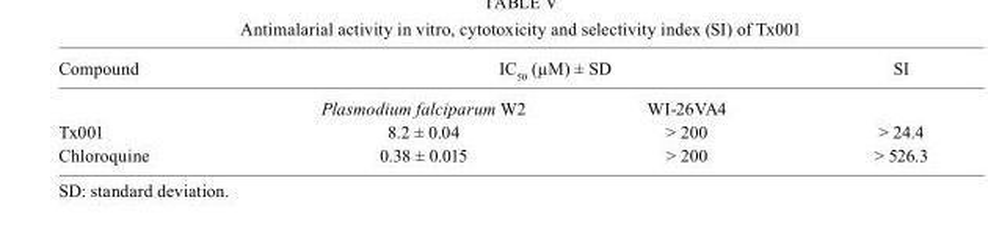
<table><thead><tr><td rowspan="2">Compound</td><td colspan="2">IC<sub>50</sub> (µM) ± SD</td><td rowspan="2">SI</td></tr><tr><td>Plasmodium falciparum W2</td><td>WI-26VA4</td></tr></thead><tbody><tr><td>Tx001</td><td>8.2 ± 0.04</td><td>&gt; 200</td><td>&gt; 24.4</td></tr><tr><td>Chloroquine</td><td>0.38 ± 0.015</td><td>&gt; 200</td><td>&gt; 526.3</td></tr></tbody></table>